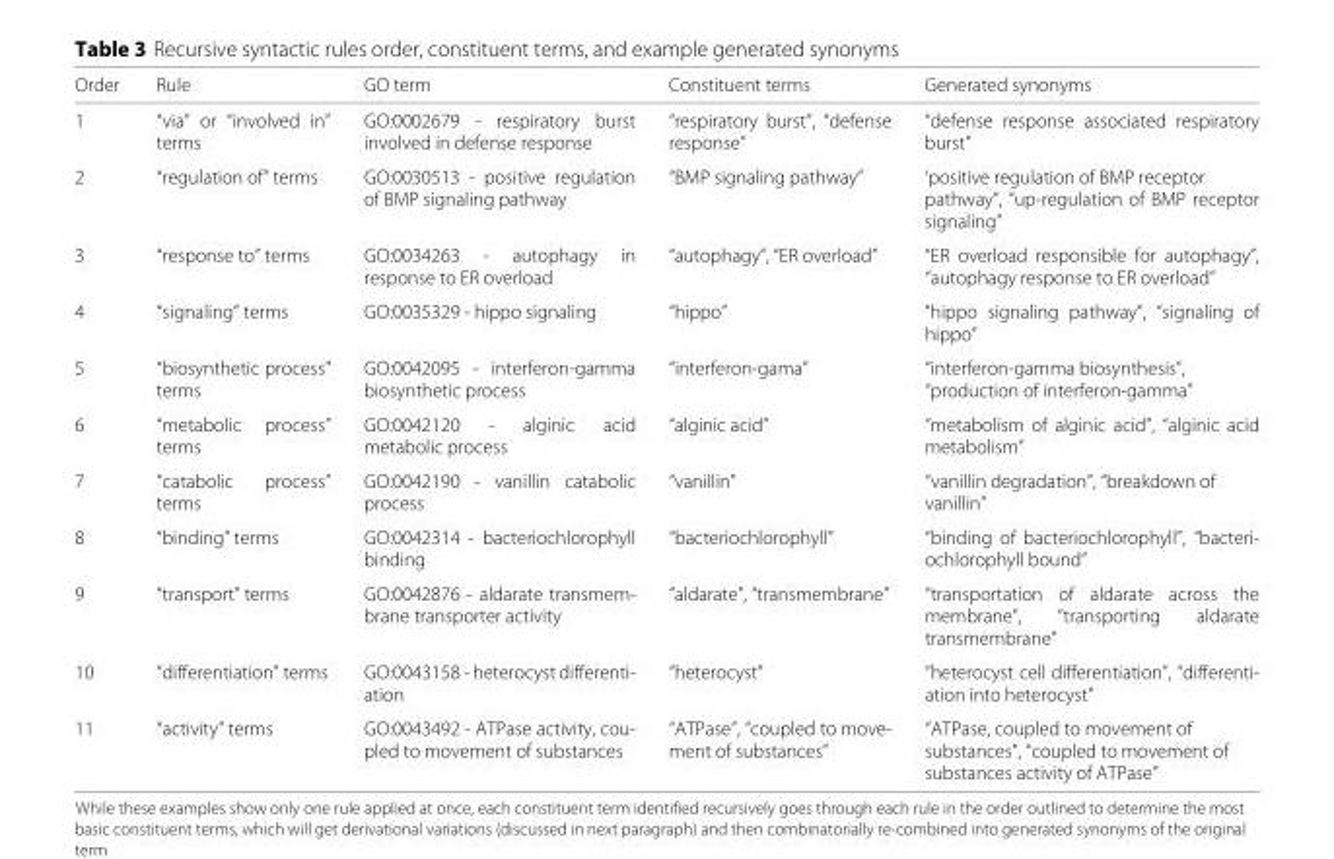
<table><thead><tr><td>Order</td><td>Rule</td><td>GO term</td><td>Constituent terms</td><td>Generated synonyms</td></tr></thead><tbody><tr><td>1</td><td>“via” or “involved in” terms</td><td>GO:0002679 - respiratory burst involved in defense response</td><td>“respiratory burst”, “defense response”</td><td>“defense response associated respiratory burst”</td></tr><tr><td>2</td><td>“regulation of” terms</td><td>GO:0030513 - positive regulation of BMP signaling pathway</td><td>“BMP signaling pathway”</td><td>‘positive regulation of BMP receptor pathway”, “up-regulation of BMP receptor signaling”</td></tr><tr><td>3</td><td>“response to” terms</td><td>GO:0034263 - autophagy in response to ER overload</td><td>“autophagy”, “ER overload”</td><td>“ER overload responsible for autophagy”, “autophagy response to ER overload”</td></tr><tr><td>4</td><td>“signaling” terms</td><td>GO:0035329 - hippo signaling</td><td>“hippo”</td><td>“hippo signaling pathway”, “signaling of hippo”</td></tr><tr><td>5</td><td>“biosynthetic process” terms</td><td>GO:0042095 - interferon-gamma biosynthetic process</td><td>“interferon-gama”</td><td>“interferon-gamma biosynthesis”, “production of interferon-gamma”</td></tr><tr><td>6</td><td>“metabolic process” terms</td><td>GO:0042120 - alginic acid metabolic process</td><td>“alginic acid”</td><td>“metabolism of alginic acid”, “alginic acid metabolism”</td></tr><tr><td>7</td><td>“catabolic process” terms</td><td>GO:0042190 - vanillin catabolic process</td><td>“vanillin”</td><td>“vanillin degradation”, “breakdown of vanillin”</td></tr><tr><td>8</td><td>“binding” terms</td><td>GO:0042314 - bacteriochlorophyll binding</td><td>“bacteriochlorophyll”</td><td>“binding of bacteriochlorophyll”, “bacteri- ochlorophyll bound”</td></tr><tr><td>9</td><td>“transport” terms</td><td>GO:0042876 - aldarate transmem- brane transporter activity</td><td>“aldarate”, “transmembrane”</td><td>“transportation of aldarate across the membrane”, “transporting aldarate transmembrane”</td></tr><tr><td>10</td><td>“differentiation” terms</td><td>GO:0043158 - heterocyst differenti- ation</td><td>“heterocyst”</td><td>“heterocyst cell differentiation”, “differenti- ation into heterocyst”</td></tr><tr><td>11</td><td>“activity” terms</td><td>GO:0043492 - ATPase activity, cou- pled to movement of substances</td><td>“ATPase”, “coupled to move- ment of substances”</td><td>“ATPase, coupled to movement of substances”, “coupled to movement of substances activity of ATPase”</td></tr></tbody></table>